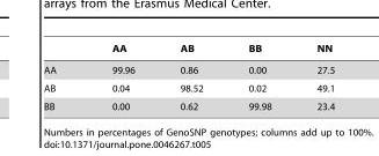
<table><thead><tr><td></td><td>AA</td><td>AB</td><td>BB</td><td>NN</td></tr></thead><tbody><tr><td>AA</td><td>99.96</td><td>0.86</td><td>0.00</td><td>27.5</td></tr><tr><td>AB</td><td>0.04</td><td>98.52</td><td>0.02</td><td>49.1</td></tr><tr><td>BB</td><td>0.00</td><td>0.62</td><td>99.98</td><td>23.4</td></tr></tbody></table>